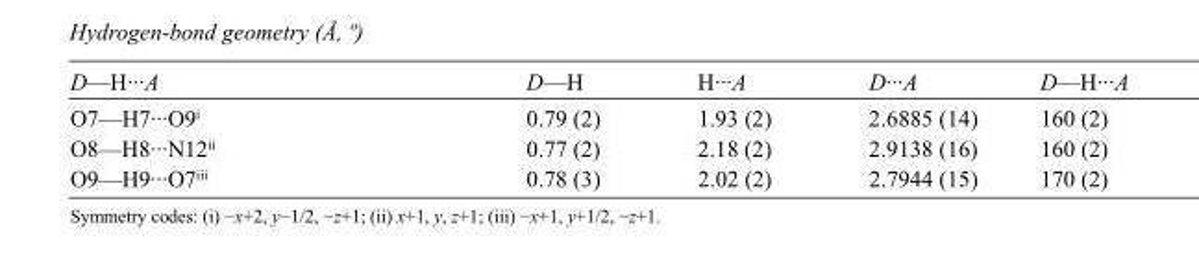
<table><tbody><tr><td>D—H···A</td><td>D—H</td><td>H···A</td><td>D···A</td><td>D—H···A</td></tr><tr><td>O7—H7···O9<sup>i</sup></td><td>0.79 (2)</td><td>1.93 (2)</td><td>2.6885 (14)</td><td>160 (2)</td></tr><tr><td>O8—H8···N12<sup>ii</sup></td><td>0.77 (2)</td><td>2.18 (2)</td><td>2.9138 (16)</td><td>160 (2)</td></tr><tr><td>O9—H9···O7<sup>iii</sup></td><td>0.78 (3)</td><td>2.02 (2)</td><td>2.7944 (15)</td><td>170 (2)</td></tr></tbody></table>